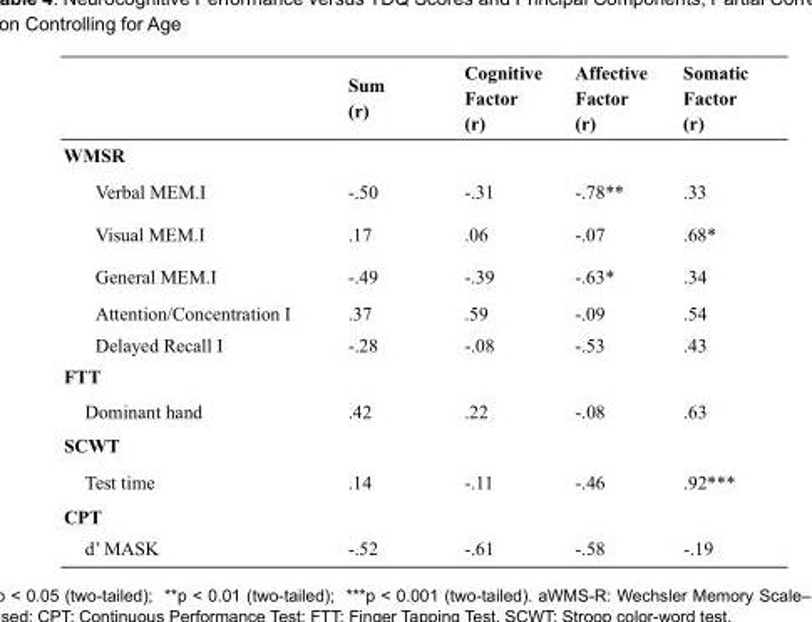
<table><thead><tr><td rowspan="2"></td><td rowspan="2">Sum (r)</td><td rowspan="2">Cognitive Factor (r)</td><td rowspan="2">Affective Factor (r)</td><td rowspan="2">Somatic Factor (r)</td></tr><tr></tr></thead><tbody><tr><td colspan="5">WMSR</td></tr><tr><td>Verbal MEM.I</td><td>-.50</td><td>-.31</td><td>-.78**</td><td>.33</td></tr><tr><td>Visual MEM.I</td><td>.17</td><td>.06</td><td>-.07</td><td>.68*</td></tr><tr><td>General MEM.I</td><td>-.49</td><td>-.39</td><td>-.63*</td><td>.34</td></tr><tr><td>Attention/Concentration I</td><td>.37</td><td>.59</td><td>-.09</td><td>.54</td></tr><tr><td>Delayed Recall I</td><td>-.28</td><td>-.08</td><td>-.53</td><td>.43</td></tr><tr><td colspan="5">FTT</td></tr><tr><td>Dominant hand</td><td>.42</td><td>.22</td><td>-.08</td><td>.63</td></tr><tr><td colspan="5">SCWT</td></tr><tr><td>Test time</td><td>.14</td><td>-.11</td><td>-.46</td><td>.92***</td></tr><tr><td colspan="5">CPT</td></tr><tr><td>d’ MASK</td><td>-.52</td><td>-.61</td><td>-.58</td><td>-.19</td></tr></tbody></table>